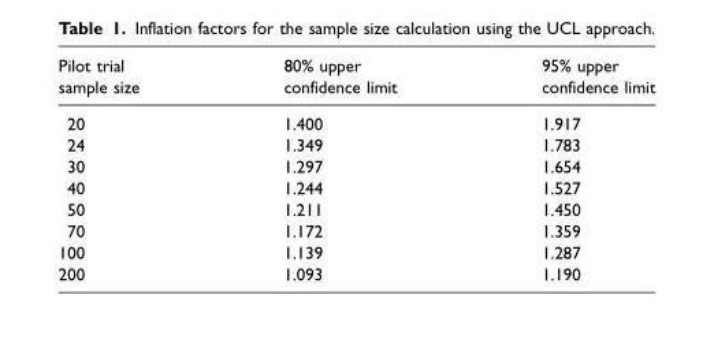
<table><thead><tr><td>Pilot trial sample size</td><td>80% upper confidence limit</td><td>95% upper confidence limit</td></tr></thead><tbody><tr><td>20</td><td>1.400</td><td>1.917</td></tr><tr><td>24</td><td>1.349</td><td>1.783</td></tr><tr><td>30</td><td>1.297</td><td>1.654</td></tr><tr><td>40</td><td>1.244</td><td>1.527</td></tr><tr><td>50</td><td>1.211</td><td>1.450</td></tr><tr><td>70</td><td>1.172</td><td>1.359</td></tr><tr><td>100</td><td>1.139</td><td>1.287</td></tr><tr><td>200</td><td>1.093</td><td>1.190</td></tr></tbody></table>